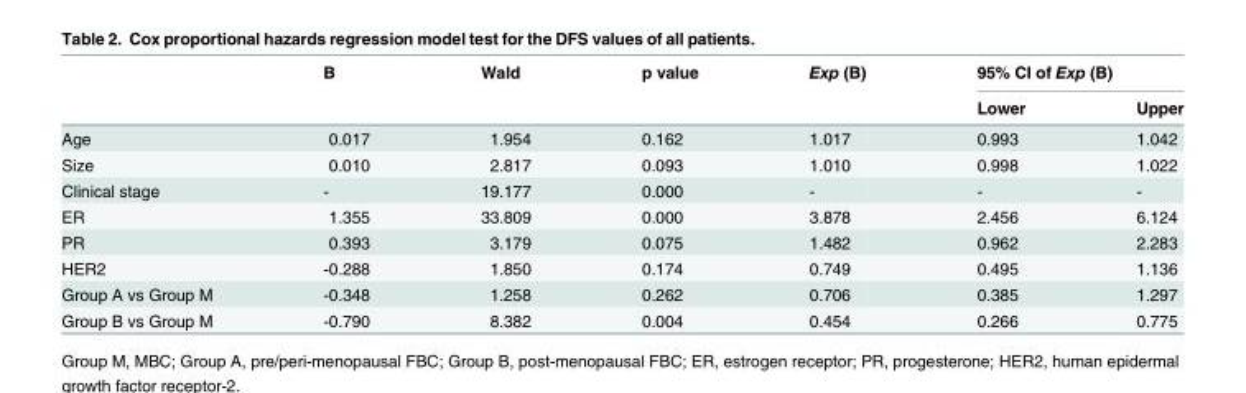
<table><thead><tr><td rowspan="2"></td><td rowspan="2">B</td><td rowspan="2">Wald</td><td rowspan="2">p value</td><td rowspan="2">Exp (B)</td><td colspan="2">95% CI of Exp (B)</td></tr><tr><td>Lower</td><td>Upper</td></tr></thead><tbody><tr><td>Age</td><td>0.017</td><td>1.954</td><td>0.162</td><td>1.017</td><td>0.993</td><td>1.042</td></tr><tr><td>Size</td><td>0.010</td><td>2.817</td><td>0.093</td><td>1.010</td><td>0.998</td><td>1.022</td></tr><tr><td>Clinical stage</td><td>-</td><td>19.177</td><td>0.000</td><td>-</td><td>-</td><td>-</td></tr><tr><td>ER</td><td>1.355</td><td>33.809</td><td>0.000</td><td>3.878</td><td>2.456</td><td>6.124</td></tr><tr><td>PR</td><td>0.393</td><td>3.179</td><td>0.075</td><td>1.482</td><td>0.962</td><td>2.283</td></tr><tr><td>HER2</td><td>-0.288</td><td>1.850</td><td>0.174</td><td>0.749</td><td>0.495</td><td>1.136</td></tr><tr><td>Group A vs Group M</td><td>-0.348</td><td>1.258</td><td>0.262</td><td>0.706</td><td>0.385</td><td>1.297</td></tr><tr><td>Group B vs Group M</td><td>-0.790</td><td>8.382</td><td>0.004</td><td>0.454</td><td>0.266</td><td>0.775</td></tr></tbody></table>